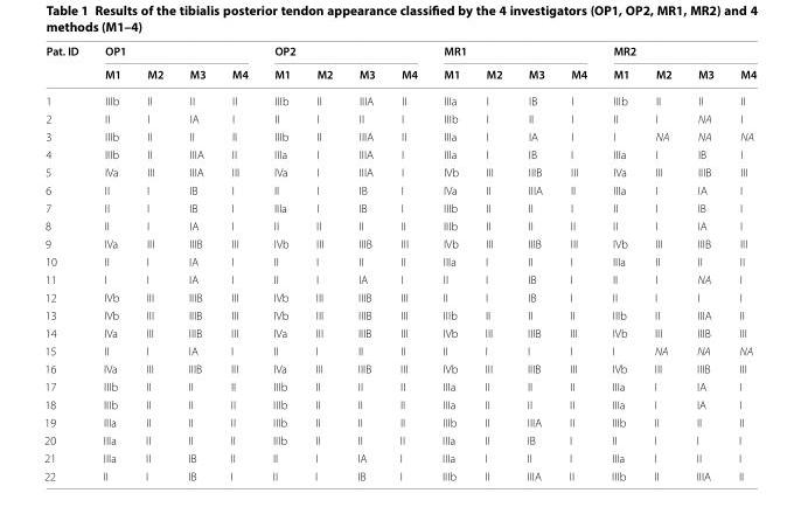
<table><thead><tr><td rowspan="2">Pat. ID</td><td colspan="4">OP1</td><td colspan="4">OP2</td><td colspan="4">MR1</td><td colspan="4">MR2</td></tr><tr><td>M1</td><td>M2</td><td>M3</td><td>M4</td><td>M1</td><td>M2</td><td>M3</td><td>M4</td><td>M1</td><td>M2</td><td>M3</td><td>M4</td><td>M1</td><td>M2</td><td>M3</td><td>M4</td></tr></thead><tbody><tr><td>1</td><td>IIIb</td><td>II</td><td>II</td><td>II</td><td>IIIb</td><td>II</td><td>IIIA</td><td>II</td><td>IIIa</td><td>I</td><td>IB</td><td>I</td><td>IIIb</td><td>II</td><td>II</td><td>II</td></tr><tr><td>2</td><td>II</td><td>I</td><td>IA</td><td>I</td><td>II</td><td>I</td><td>II</td><td>I</td><td>IIIb</td><td>I</td><td>II</td><td>I</td><td>II</td><td>I</td><td>NA</td><td>I</td></tr><tr><td>3</td><td>IIIb</td><td>II</td><td>II</td><td>II</td><td>IIIb</td><td>II</td><td>IIIA</td><td>II</td><td>IIIa</td><td>I</td><td>IA</td><td>I</td><td>I</td><td>NA</td><td>NA</td><td>NA</td></tr><tr><td>4</td><td>IIIb</td><td>II</td><td>IIIA</td><td>II</td><td>IIIa</td><td>I</td><td>IIIA</td><td>I</td><td>IIIa</td><td>I</td><td>IB</td><td>I</td><td>IIIa</td><td>I</td><td>IB</td><td>I</td></tr><tr><td>5</td><td>IVa</td><td>III</td><td>IIIA</td><td>III</td><td>IVa</td><td>I</td><td>IIIA</td><td>I</td><td>IVb</td><td>III</td><td>IIIB</td><td>III</td><td>IVa</td><td>III</td><td>IIIB</td><td>III</td></tr><tr><td>6</td><td>II</td><td>I</td><td>IB</td><td>I</td><td>II</td><td>I</td><td>IB</td><td>I</td><td>IVa</td><td>II</td><td>IIIA</td><td>II</td><td>IIIa</td><td>I</td><td>IA</td><td>I</td></tr><tr><td>7</td><td>II</td><td>I</td><td>IB</td><td>I</td><td>IIIa</td><td>I</td><td>IB</td><td>I</td><td>IIIb</td><td>II</td><td>II</td><td>I</td><td>II</td><td>I</td><td>IB</td><td>I</td></tr><tr><td>8</td><td>II</td><td>I</td><td>IA</td><td>I</td><td>II</td><td>II</td><td>II</td><td>II</td><td>IIIb</td><td>II</td><td>II</td><td>II</td><td>II</td><td>I</td><td>IA</td><td>I</td></tr><tr><td>9</td><td>IVa</td><td>III</td><td>IIIB</td><td>III</td><td>IVb</td><td>III</td><td>IIIB</td><td>III</td><td>IVb</td><td>III</td><td>IIIB</td><td>III</td><td>IVb</td><td>III</td><td>IIIB</td><td>III</td></tr><tr><td>10</td><td>II</td><td>I</td><td>IA</td><td>I</td><td>II</td><td>I</td><td>II</td><td>II</td><td>IIIa</td><td>I</td><td>II</td><td>I</td><td>IIIa</td><td>II</td><td>II</td><td>II</td></tr><tr><td>11</td><td>I</td><td>I</td><td>IA</td><td>I</td><td>II</td><td>I</td><td>IA</td><td>I</td><td>II</td><td>I</td><td>IB</td><td>I</td><td>II</td><td>I</td><td>NA</td><td>I</td></tr><tr><td>12</td><td>IVb</td><td>III</td><td>IIIB</td><td>III</td><td>IVb</td><td>III</td><td>IIIB</td><td>III</td><td>II</td><td>I</td><td>IB</td><td>I</td><td>II</td><td>I</td><td>I</td><td>I</td></tr><tr><td>13</td><td>IVb</td><td>III</td><td>IIIB</td><td>III</td><td>IVb</td><td>III</td><td>IIIB</td><td>III</td><td>IIIb</td><td>II</td><td>II</td><td>II</td><td>IIIb</td><td>II</td><td>IIIA</td><td>II</td></tr><tr><td>14</td><td>IVa</td><td>III</td><td>IIIB</td><td>III</td><td>IVa</td><td>III</td><td>IIIB</td><td>III</td><td>IVb</td><td>III</td><td>IIIB</td><td>III</td><td>IVb</td><td>III</td><td>IIIB</td><td>III</td></tr><tr><td>15</td><td>II</td><td>I</td><td>IA</td><td>I</td><td>II</td><td>I</td><td>II</td><td>II</td><td>II</td><td>I</td><td>I</td><td>I</td><td>I</td><td>NA</td><td>NA</td><td>NA</td></tr><tr><td>16</td><td>IVa</td><td>III</td><td>IIIB</td><td>III</td><td>IVa</td><td>III</td><td>IIIB</td><td>III</td><td>IVb</td><td>III</td><td>IIIB</td><td>III</td><td>IVb</td><td>III</td><td>IIIB</td><td>III</td></tr><tr><td>17</td><td>IIIb</td><td>II</td><td>II</td><td>II</td><td>IIIb</td><td>II</td><td>II</td><td>II</td><td>IIIa</td><td>II</td><td>II</td><td>II</td><td>IIIa</td><td>I</td><td>IA</td><td>I</td></tr><tr><td>18</td><td>IIIb</td><td>II</td><td>II</td><td>II</td><td>IIIb</td><td>II</td><td>II</td><td>II</td><td>IIIa</td><td>II</td><td>II</td><td>II</td><td>IIIa</td><td>I</td><td>IA</td><td>I</td></tr><tr><td>19</td><td>IIIa</td><td>II</td><td>II</td><td>II</td><td>IIIb</td><td>II</td><td>II</td><td>II</td><td>IIIb</td><td>II</td><td>IIIA</td><td>II</td><td>IIIb</td><td>II</td><td>II</td><td>II</td></tr><tr><td>20</td><td>IIIa</td><td>II</td><td>II</td><td>II</td><td>IIIb</td><td>II</td><td>II</td><td>II</td><td>IIIa</td><td>II</td><td>IB</td><td>I</td><td>II</td><td>I</td><td>I</td><td>I</td></tr><tr><td>21</td><td>IIIa</td><td>II</td><td>IB</td><td>II</td><td>II</td><td>I</td><td>IA</td><td>I</td><td>IIIa</td><td>I</td><td>II</td><td>I</td><td>IIIa</td><td>I</td><td>II</td><td>I</td></tr><tr><td>22</td><td>II</td><td>I</td><td>IB</td><td>I</td><td>II</td><td>I</td><td>IB</td><td>I</td><td>IIIb</td><td>II</td><td>IIIA</td><td>II</td><td>IIIb</td><td>II</td><td>IIIA</td><td>II</td></tr></tbody></table>